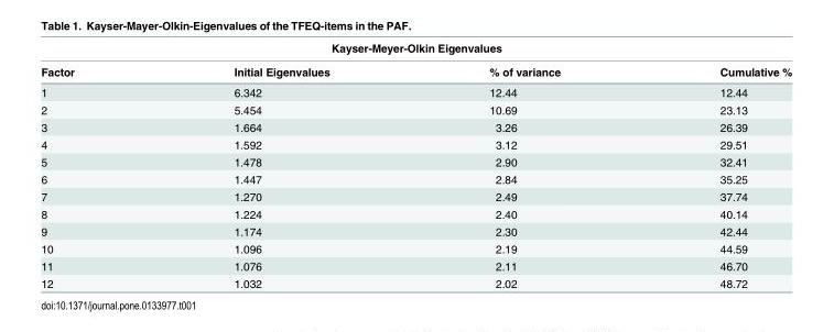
<table><thead><tr><td colspan="4">Kayser-Meyer-Olkin Eigenvalues</td></tr><tr><td>Factor</td><td>Initial Eigenvalues</td><td>% of variance</td><td>Cumulative %</td></tr></thead><tbody><tr><td>1</td><td>6.342</td><td>12.44</td><td>12.44</td></tr><tr><td>2</td><td>5.454</td><td>10.69</td><td>23.13</td></tr><tr><td>3</td><td>1.664</td><td>3.26</td><td>26.39</td></tr><tr><td>4</td><td>1.592</td><td>3.12</td><td>29.51</td></tr><tr><td>5</td><td>1.478</td><td>2.90</td><td>32.41</td></tr><tr><td>6</td><td>1.447</td><td>2.84</td><td>35.25</td></tr><tr><td>7</td><td>1.270</td><td>2.49</td><td>37.74</td></tr><tr><td>8</td><td>1.224</td><td>2.40</td><td>40.14</td></tr><tr><td>9</td><td>1.174</td><td>2.30</td><td>42.44</td></tr><tr><td>10</td><td>1.096</td><td>2.19</td><td>44.59</td></tr><tr><td>11</td><td>1.076</td><td>2.11</td><td>46.70</td></tr><tr><td>12</td><td>1.032</td><td>2.02</td><td>48.72</td></tr></tbody></table>